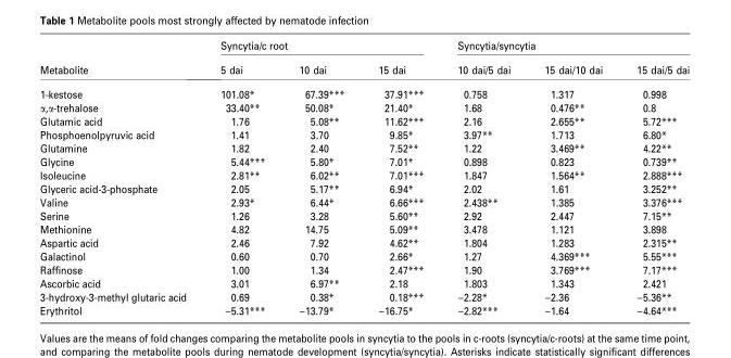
<table><thead><tr><td rowspan="2">Metabolite</td><td colspan="3">Syncytia/c root</td><td colspan="3">Syncytia/syncytia</td></tr><tr><td>5 dai</td><td>10 dai</td><td>15 dai</td><td>10 dai/5 dai</td><td>15 dai/10 dai</td><td>15 dai/5 dai</td></tr></thead><tbody><tr><td>1-kestose</td><td>101.08*</td><td>67.39***</td><td>37.91***</td><td>0.758</td><td>1.317</td><td>0.998</td></tr><tr><td>α,α-trehalose</td><td>33.40**</td><td>50.08*</td><td>21.40*</td><td>1.68</td><td>0.476**</td><td>0.8</td></tr><tr><td>Glutamic acid</td><td>1.76</td><td>5.08**</td><td>11.62***</td><td>2.16</td><td>2.655**</td><td>5.72***</td></tr><tr><td>Phosphoenolpyruvic acid</td><td>1.41</td><td>3.70</td><td>9.85*</td><td>3.97**</td><td>1.713</td><td>6.80*</td></tr><tr><td>Glutamine</td><td>1.82</td><td>2.40</td><td>7.52**</td><td>1.22</td><td>3.469**</td><td>4.22**</td></tr><tr><td>Glycine</td><td>5.44***</td><td>5.80*</td><td>7.01*</td><td>0.898</td><td>0.823</td><td>0.739**</td></tr><tr><td>Isoleucine</td><td>2.81**</td><td>6.02**</td><td>7.01***</td><td>1.847</td><td>1.564**</td><td>2.888***</td></tr><tr><td>Glyceric acid-3-phosphate</td><td>2.05</td><td>5.17**</td><td>6.94*</td><td>2.02</td><td>1.61</td><td>3.252**</td></tr><tr><td>Valine</td><td>2.93*</td><td>6.44*</td><td>6.66***</td><td>2.438**</td><td>1.385</td><td>3.376***</td></tr><tr><td>Serine</td><td>1.26</td><td>3.28</td><td>5.60**</td><td>2.92</td><td>2.447</td><td>7.15**</td></tr><tr><td>Methionine</td><td>4.82</td><td>14.75</td><td>5.09**</td><td>3.478</td><td>1.121</td><td>3.898</td></tr><tr><td>Aspartic acid</td><td>2.46</td><td>7.92</td><td>4.62**</td><td>1.804</td><td>1.283</td><td>2.315**</td></tr><tr><td>Galactinol</td><td>0.60</td><td>0.70</td><td>2.66*</td><td>1.27</td><td>4.369***</td><td>5.55***</td></tr><tr><td>Raffinose</td><td>1.00</td><td>1.34</td><td>2.47***</td><td>1.90</td><td>3.769***</td><td>7.17***</td></tr><tr><td>Ascorbic acid</td><td>3.01</td><td>6.97**</td><td>2.18</td><td>1.803</td><td>1.343</td><td>2.421</td></tr><tr><td>3-hydroxy-3-methyl glutaric acid</td><td>0.69</td><td>0.38*</td><td>0.18***</td><td>−2.28*</td><td>−2.36</td><td>−5.36**</td></tr><tr><td>Erythritol</td><td>−5.31***</td><td>−13.79*</td><td>−16.75*</td><td>−2.82***</td><td>−1.64</td><td>−4.64***</td></tr></tbody></table>